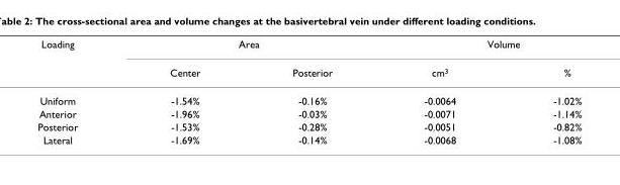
<table><thead><tr><td rowspan="2">Loading</td><td colspan="2">Area</td><td colspan="2">Volume</td></tr><tr><td>Center</td><td>Posterior</td><td>cm<sup>3</sup></td><td>%</td></tr></thead><tbody><tr><td>Uniform</td><td>-1.54%</td><td>-0.16%</td><td>-0.0064</td><td>-1.02%</td></tr><tr><td>Anterior</td><td>-1.96%</td><td>-0.03%</td><td>-0.0071</td><td>-1.14%</td></tr><tr><td>Posterior</td><td>-1.53%</td><td>-0.28%</td><td>-0.0051</td><td>-0.82%</td></tr><tr><td>Lateral</td><td>-1.69%</td><td>-0.14%</td><td>-0.0068</td><td>-1.08%</td></tr></tbody></table>